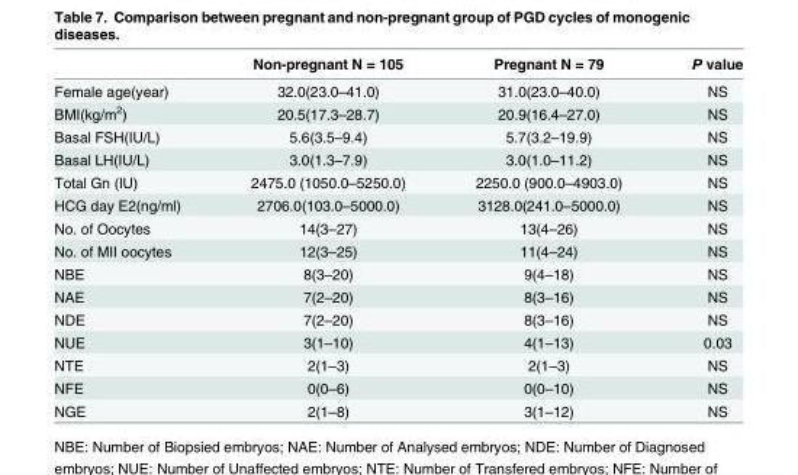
<table><thead><tr><td></td><td>Non-pregnant N = 105</td><td>Pregnant N = 79</td><td>P value</td></tr></thead><tbody><tr><td>Female age(year)</td><td>32.0(23.0–41.0)</td><td>31.0(23.0–40.0)</td><td>NS</td></tr><tr><td>BMI(kg/m<sup>2</sup>)</td><td>20.5(17.3–28.7)</td><td>20.9(16.4–27.0)</td><td>NS</td></tr><tr><td>Basal FSH(IU/L)</td><td>5.6(3.5–9.4)</td><td>5.7(3.2–19.9)</td><td>NS</td></tr><tr><td>Basal LH(IU/L)</td><td>3.0(1.3–7.9)</td><td>3.0(1.0–11.2)</td><td>NS</td></tr><tr><td>Total Gn (IU)</td><td>2475.0 (1050.0–5250.0)</td><td>2250.0 (900.0–4903.0)</td><td>NS</td></tr><tr><td>HCG day E2(ng/ml)</td><td>2706.0(103.0–5000.0)</td><td>3128.0(241.0–5000.0)</td><td>NS</td></tr><tr><td>No. of Oocytes</td><td>14(3–27)</td><td>13(4–26)</td><td>NS</td></tr><tr><td>No. of MII oocytes</td><td>12(3–25)</td><td>11(4–24)</td><td>NS</td></tr><tr><td>NBE</td><td>8(3–20)</td><td>9(4–18)</td><td>NS</td></tr><tr><td>NAE</td><td>7(2–20)</td><td>8(3–16)</td><td>NS</td></tr><tr><td>NDE</td><td>7(2–20)</td><td>8(3–16)</td><td>NS</td></tr><tr><td>NUE</td><td>3(1–10)</td><td>4(1–13)</td><td>0.03</td></tr><tr><td>NTE</td><td>2(1–3)</td><td>2(1–3)</td><td>NS</td></tr><tr><td>NFE</td><td>0(0–6)</td><td>0(0–10)</td><td>NS</td></tr><tr><td>NGE</td><td>2(1–8)</td><td>3(1–12)</td><td>NS</td></tr></tbody></table>